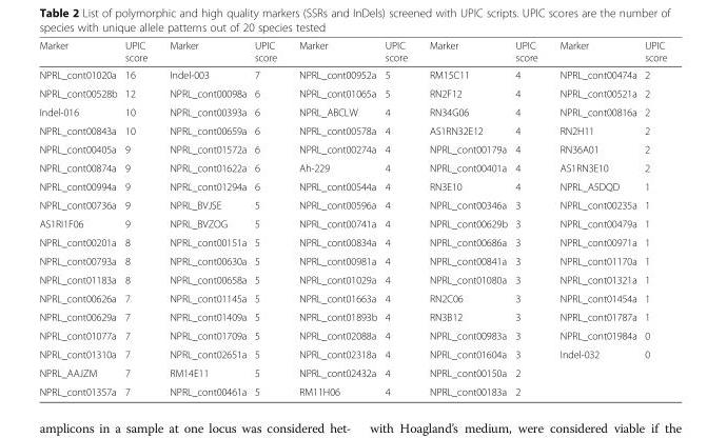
<table><thead><tr><td>Marker</td><td>UPIC score</td><td>Marker</td><td>UPIC score</td><td>Marker</td><td>UPIC score</td><td>Marker</td><td>UPIC score</td><td>Marker</td><td>UPIC score</td></tr></thead><tbody><tr><td>NPRL_cont01020a</td><td>16</td><td>Indel-003</td><td>7</td><td>NPRL_cont00952a</td><td>5</td><td>RM15C11</td><td>4</td><td>NPRL_cont00474a</td><td>2</td></tr><tr><td>NPRL_cont00528b</td><td>12</td><td>NPRL_cont00098a</td><td>6</td><td>NPRL_cont01065a</td><td>5</td><td>RN2F12</td><td>4</td><td>NPRL_cont00521a</td><td>2</td></tr><tr><td>Indel-016</td><td>10</td><td>NPRL_cont00393a</td><td>6</td><td>NPRL_ABCLW</td><td>4</td><td>RN34G06</td><td>4</td><td>NPRL_cont00816a</td><td>2</td></tr><tr><td>NPRL_cont00843a</td><td>10</td><td>NPRL_cont00659a</td><td>6</td><td>NPRL_cont00578a</td><td>4</td><td>AS1RN32E12</td><td>4</td><td>RN2H11</td><td>2</td></tr><tr><td>NPRL_cont00405a</td><td>9</td><td>NPRL_cont01572a</td><td>6</td><td>NPRL_cont00274a</td><td>4</td><td>NPRL_cont00179a</td><td>4</td><td>RN36A01</td><td>2</td></tr><tr><td>NPRL_cont00874a</td><td>9</td><td>NPRL_cont01622a</td><td>6</td><td>Ah-229</td><td>4</td><td>NPRL_cont00401a</td><td>4</td><td>AS1RN3E10</td><td>2</td></tr><tr><td>NPRL_cont00994a</td><td>9</td><td>NPRL_cont01294a</td><td>6</td><td>NPRL_cont00544a</td><td>4</td><td>RN3E10</td><td>4</td><td>NPRL_A5DQD</td><td>1</td></tr><tr><td>NPRL_cont00736a</td><td>9</td><td>NPRL_BVJSE</td><td>5</td><td>NPRL_cont00596a</td><td>4</td><td>NPRL_cont00346a</td><td>3</td><td>NPRL_cont00235a</td><td>1</td></tr><tr><td>AS1RI1F06</td><td>9</td><td>NPRL_BVZOG</td><td>5</td><td>NPRL_cont00741a</td><td>4</td><td>NPRL_cont00629b</td><td>3</td><td>NPRL_cont00479a</td><td>1</td></tr><tr><td>NPRL_cont00201a</td><td>8</td><td>NPRL_cont00151a</td><td>5</td><td>NPRL_cont00834a</td><td>4</td><td>NPRL_cont00686a</td><td>3</td><td>NPRL_cont00971a</td><td>1</td></tr><tr><td>NPRL_cont00793a</td><td>8</td><td>NPRL_cont00630a</td><td>5</td><td>NPRL_cont00981a</td><td>4</td><td>NPRL_cont00841a</td><td>3</td><td>NPRL_cont01170a</td><td>1</td></tr><tr><td>NPRL_cont01183a</td><td>8</td><td>NPRL_cont00658a</td><td>5</td><td>NPRL_cont01029a</td><td>4</td><td>NPRL_cont01080a</td><td>3</td><td>NPRL_cont01321a</td><td>1</td></tr><tr><td>NPRL_cont00626a</td><td>7</td><td>NPRL_cont01145a</td><td>5</td><td>NPRL_cont01663a</td><td>4</td><td>RN2C06</td><td>3</td><td>NPRL_cont01454a</td><td>1</td></tr><tr><td>NPRL_cont00629a</td><td>7</td><td>NPRL_cont01409a</td><td>5</td><td>NPRL_cont01893b</td><td>4</td><td>RN3B12</td><td>3</td><td>NPRL_cont01787a</td><td>1</td></tr><tr><td>NPRL_cont01077a</td><td>7</td><td>NPRL_cont01709a</td><td>5</td><td>NPRL_cont02088a</td><td>4</td><td>NPRL_cont00983a</td><td>3</td><td>NPRL_cont01984a</td><td>0</td></tr><tr><td>NPRL_cont01310a</td><td>7</td><td>NPRL_cont02651a</td><td>5</td><td>NPRL_cont02318a</td><td>4</td><td>NPRL_cont01604a</td><td>3</td><td>Indel-032</td><td>0</td></tr><tr><td>NPRL_AAJZM</td><td>7</td><td>RM14E11</td><td>5</td><td>NPRL_cont02432a</td><td>4</td><td>NPRL_cont00150a</td><td>2</td><td></td><td></td></tr><tr><td>NPRL_cont01357a</td><td>7</td><td>NPRL_cont00461a</td><td>5</td><td>RM11H06</td><td>4</td><td>NPRL_cont00183a</td><td>2</td><td></td><td></td></tr></tbody></table>